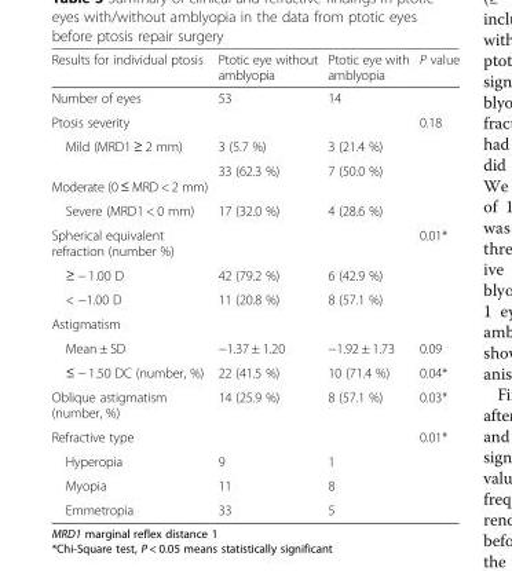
<table><thead><tr><td>Results for individual ptosis</td><td>Ptotic eye without amblyopia</td><td>Ptotic eye with amblyopia</td><td>P value</td></tr></thead><tbody><tr><td>Number of eyes</td><td>53</td><td>14</td><td></td></tr><tr><td colspan="3">Ptosis severity</td><td rowspan="4">0.18</td></tr><tr><td>Mild (MRD1 ≥ 2 mm)</td><td>3 (5.7 %)</td><td>3 (21.4 %)</td></tr><tr><td>Moderate (0 ≤ MRD &lt; 2 mm)</td><td>33 (62.3 %)</td><td>7 (50.0 %)</td></tr><tr><td>Severe (MRD1 &lt; 0 mm)</td><td>17 (32.0 %)</td><td>4 (28.6 %)</td></tr><tr><td colspan="3">Spherical equivalent refraction (number %)</td><td rowspan="3">0.01*</td></tr><tr><td>≥ − 1.00 D</td><td>42 (79.2 %)</td><td>6 (42.9 %)</td></tr><tr><td>&lt; −1.00 D</td><td>11 (20.8 %)</td><td>8 (57.1 %)</td></tr><tr><td colspan="4">Astigmatism</td></tr><tr><td>Mean ± SD</td><td>−1.37 ± 1.20</td><td>−1.92 ± 1.73</td><td>0.09</td></tr><tr><td>≤ − 1.50 DC (number, %)</td><td>22 (41.5 %)</td><td>10 (71.4 %)</td><td>0.04*</td></tr><tr><td>Oblique astigmatism (number, %)</td><td>14 (25.9 %)</td><td>8 (57.1 %)</td><td>0.03*</td></tr><tr><td>Refractive type</td><td></td><td></td><td>0.01*</td></tr><tr><td>Hyperopia</td><td>9</td><td>1</td><td rowspan="3"></td></tr><tr><td>Myopia</td><td>11</td><td>8</td></tr><tr><td>Emmetropia</td><td>33</td><td>5</td></tr></tbody></table>